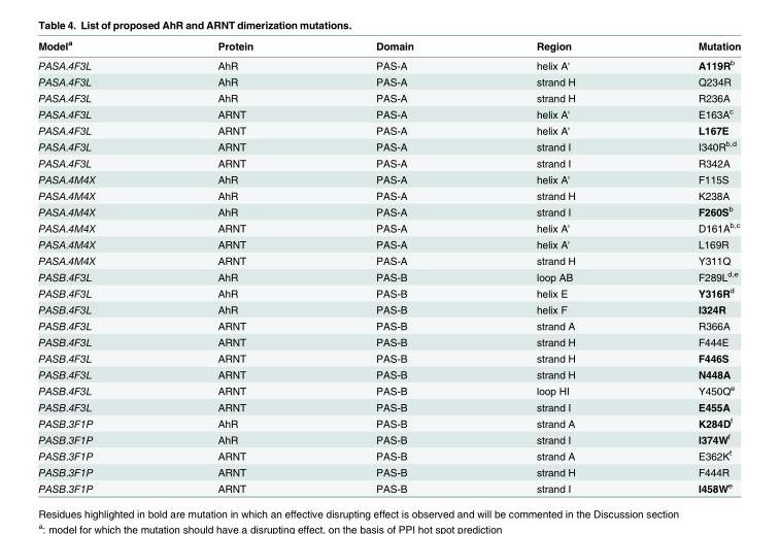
<table><thead><tr><td>Model<sup>a</sup></td><td>Protein</td><td>Domain</td><td>Region</td><td>Mutation</td></tr></thead><tbody><tr><td>PASA.4F3L</td><td>AhR</td><td>PAS-A</td><td>helix A&#x27;</td><td>A119R<sup>b</sup></td></tr><tr><td>PASA.4F3L</td><td>AhR</td><td>PAS-A</td><td>strand H</td><td>Q234R</td></tr><tr><td>PASA.4F3L</td><td>AhR</td><td>PAS-A</td><td>strand H</td><td>R236A</td></tr><tr><td>PASA.4F3L</td><td>ARNT</td><td>PAS-A</td><td>helix A&#x27;</td><td>E163A<sup>c</sup></td></tr><tr><td>PASA.4F3L</td><td>ARNT</td><td>PAS-A</td><td>helix A&#x27;</td><td>L167E</td></tr><tr><td>PASA.4F3L</td><td>ARNT</td><td>PAS-A</td><td>strand I</td><td>I340R<sup>b,d</sup></td></tr><tr><td>PASA.4F3L</td><td>ARNT</td><td>PAS-A</td><td>strand I</td><td>R342A</td></tr><tr><td>PASA.4M4X</td><td>AhR</td><td>PAS-A</td><td>helix A&#x27;</td><td>F115S</td></tr><tr><td>PASA.4M4X</td><td>AhR</td><td>PAS-A</td><td>strand H</td><td>K238A</td></tr><tr><td>PASA.4M4X</td><td>AhR</td><td>PAS-A</td><td>strand I</td><td>F260S<sup>b</sup></td></tr><tr><td>PASA.4M4X</td><td>ARNT</td><td>PAS-A</td><td>helix A&#x27;</td><td>D161A<sup>b,c</sup></td></tr><tr><td>PASA.4M4X</td><td>ARNT</td><td>PAS-A</td><td>helix A&#x27;</td><td>L169R</td></tr><tr><td>PASA.4M4X</td><td>ARNT</td><td>PAS-A</td><td>strand H</td><td>Y311Q</td></tr><tr><td>PASB.4F3L</td><td>AhR</td><td>PAS-B</td><td>loop AB</td><td>F289L<sup>d,e</sup></td></tr><tr><td>PASB.4F3L</td><td>AhR</td><td>PAS-B</td><td>helix E</td><td>Y316R<sup>d</sup></td></tr><tr><td>PASB.4F3L</td><td>AhR</td><td>PAS-B</td><td>helix F</td><td>I324R</td></tr><tr><td>PASB.4F3L</td><td>ARNT</td><td>PAS-B</td><td>strand A</td><td>R366A</td></tr><tr><td>PASB.4F3L</td><td>ARNT</td><td>PAS-B</td><td>strand H</td><td>F444E</td></tr><tr><td>PASB.4F3L</td><td>ARNT</td><td>PAS-B</td><td>strand H</td><td>F446S</td></tr><tr><td>PASB.4F3L</td><td>ARNT</td><td>PAS-B</td><td>strand H</td><td>N448A</td></tr><tr><td>PASB.4F3L</td><td>ARNT</td><td>PAS-B</td><td>loop HI</td><td>Y450Q<sup>e</sup></td></tr><tr><td>PASB.4F3L</td><td>ARNT</td><td>PAS-B</td><td>strand I</td><td>E455A</td></tr><tr><td>PASB.3F1P</td><td>AhR</td><td>PAS-B</td><td>strand A</td><td>K284D<sup>f</sup></td></tr><tr><td>PASB.3F1P</td><td>AhR</td><td>PAS-B</td><td>strand I</td><td>I374W<sup>f</sup></td></tr><tr><td>PASB.3F1P</td><td>ARNT</td><td>PAS-B</td><td>strand A</td><td>E362K<sup>f</sup></td></tr><tr><td>PASB.3F1P</td><td>ARNT</td><td>PAS-B</td><td>strand H</td><td>F444R</td></tr><tr><td>PASB.3F1P</td><td>ARNT</td><td>PAS-B</td><td>strand I</td><td>I458W<sup>e</sup></td></tr></tbody></table>